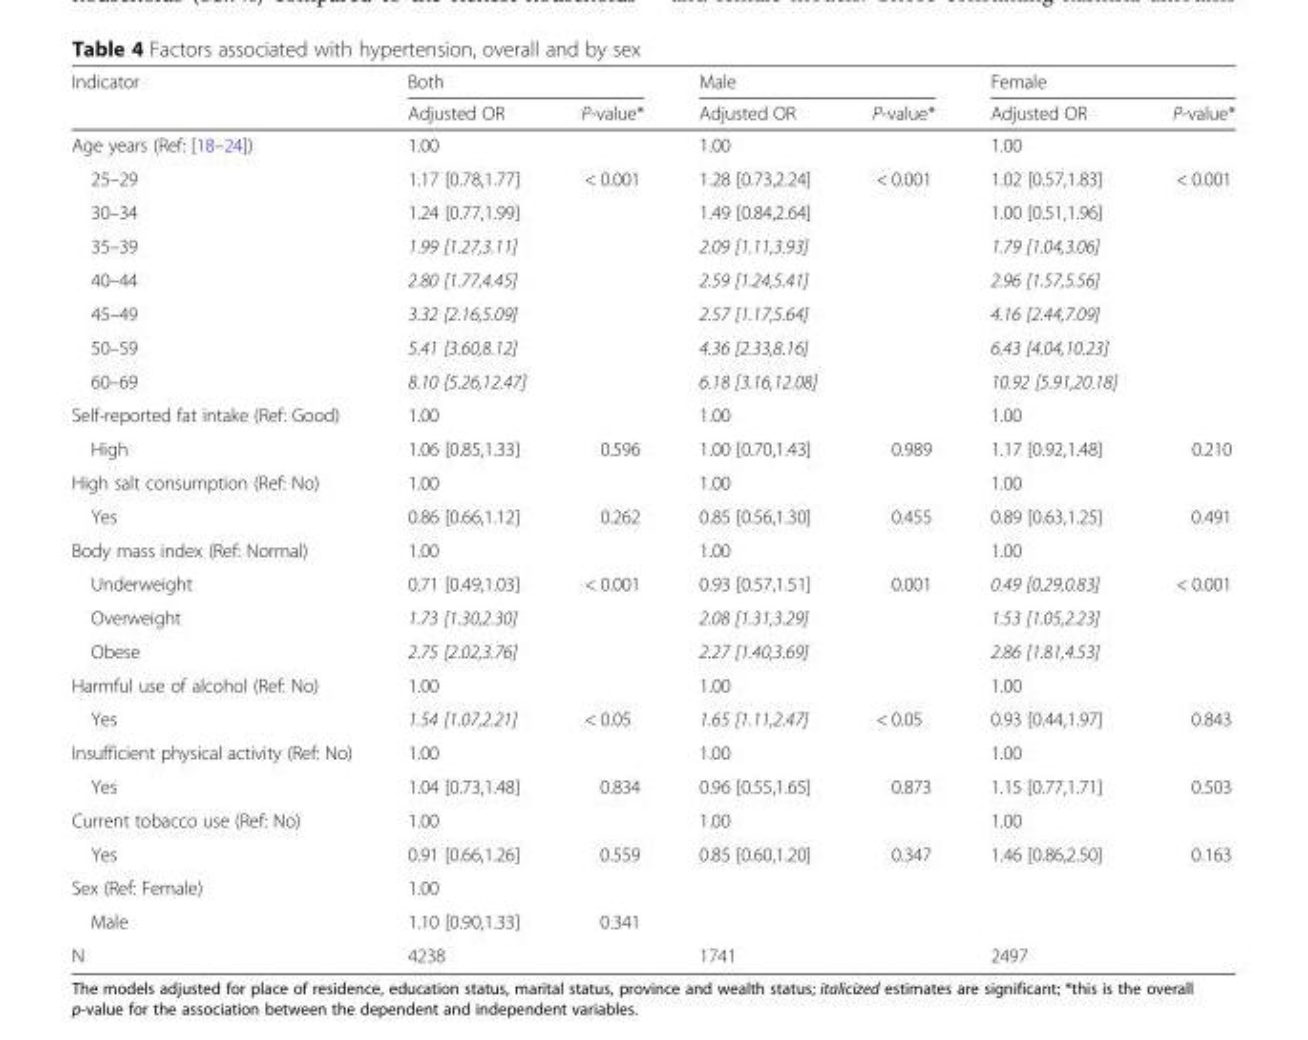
<table><thead><tr><td rowspan="2">Indicator</td><td colspan="2">Both</td><td colspan="2">Male</td><td colspan="2">Female</td></tr><tr><td>Adjusted OR</td><td>P-value*</td><td>Adjusted OR</td><td>P-value*</td><td>Adjusted OR</td><td>P-value*</td></tr></thead><tbody><tr><td>Age years (Ref: [18–24])</td><td>1.00</td><td></td><td>1.00</td><td></td><td>1.00</td><td></td></tr><tr><td>25–29</td><td>1.17 [0.78,1.77]</td><td>&lt; 0.001</td><td>1.28 [0.73,2.24]</td><td>&lt; 0.001</td><td>1.02 [0.57,1.83]</td><td>&lt; 0.001</td></tr><tr><td>30–34</td><td>1.24 [0.77,1.99]</td><td></td><td>1.49 [0.84,2.64]</td><td></td><td>1.00 [0.51,1.96]</td><td></td></tr><tr><td>35–39</td><td>1.99 [1.27,3.11]</td><td></td><td>2.09 [1.11,3.93]</td><td></td><td>1.79 [1.04,3.06]</td><td></td></tr><tr><td>40–44</td><td>2.80 [1.77,4.45]</td><td></td><td>2.59 [1.24,5.41]</td><td></td><td>2.96 [1.57,5.56]</td><td></td></tr><tr><td>45–49</td><td>3.32 [2.16,5.09]</td><td></td><td>2.57 [1.17,5.64]</td><td></td><td>4.16 [2.44,7.09]</td><td></td></tr><tr><td>50–59</td><td>5.41 [3.60,8.12]</td><td></td><td>4.36 [2.33,8.16]</td><td></td><td>6.43 [4.04,10.23]</td><td></td></tr><tr><td>60–69</td><td>8.10 [5.26,12.47]</td><td></td><td>6.18 [3.16,12.08]</td><td></td><td>10.92 [5.91,20.18]</td><td></td></tr><tr><td>Self-reported fat intake (Ref: Good)</td><td>1.00</td><td></td><td>1.00</td><td></td><td>1.00</td><td></td></tr><tr><td>High</td><td>1.06 [0.85,1.33]</td><td>0.596</td><td>1.00 [0.70,1.43]</td><td>0.989</td><td>1.17 [0.92,1.48]</td><td>0.210</td></tr><tr><td>High salt consumption (Ref: No)</td><td>1.00</td><td></td><td>1.00</td><td></td><td>1.00</td><td></td></tr><tr><td>Yes</td><td>0.86 [0.66,1.12]</td><td>0.262</td><td>0.85 [0.56,1.30]</td><td>0.455</td><td>0.89 [0.63,1.25]</td><td>0.491</td></tr><tr><td>Body mass index (Ref: Normal)</td><td>1.00</td><td></td><td>1.00</td><td></td><td>1.00</td><td></td></tr><tr><td>Underweight</td><td>0.71 [0.49,1.03]</td><td>&lt; 0.001</td><td>0.93 [0.57,1.51]</td><td>0.001</td><td>0.49 [0.29,0.83]</td><td>&lt; 0.001</td></tr><tr><td>Overweight</td><td>1.73 [1.30,2.30]</td><td></td><td>2.08 [1.31,3.29]</td><td></td><td>1.53 [1.05,2.23]</td><td></td></tr><tr><td>Obese</td><td>2.75 [2.02,3.76]</td><td></td><td>2.27 [1.40,3.69]</td><td></td><td>2.86 [1.81,4.53]</td><td></td></tr><tr><td>Harmful use of alcohol (Ref: No)</td><td>1.00</td><td></td><td>1.00</td><td></td><td>1.00</td><td></td></tr><tr><td>Yes</td><td>1.54 [1.07,2.21]</td><td>&lt; 0.05</td><td>1.65 [1.11,2.47]</td><td>&lt; 0.05</td><td>0.93 [0.44,1.97]</td><td>0.843</td></tr><tr><td>Insufficient physical activity (Ref: No)</td><td>1.00</td><td></td><td>1.00</td><td></td><td>1.00</td><td></td></tr><tr><td>Yes</td><td>1.04 [0.73,1.48]</td><td>0.834</td><td>0.96 [0.55,1.65]</td><td>0.873</td><td>1.15 [0.77,1.71]</td><td>0.503</td></tr><tr><td>Current tobacco use (Ref: No)</td><td>1.00</td><td></td><td>1.00</td><td></td><td>1.00</td><td></td></tr><tr><td>Yes</td><td>0.91 [0.66,1.26]</td><td>0.559</td><td>0.85 [0.60,1.20]</td><td>0.347</td><td>1.46 [0.86,2.50]</td><td>0.163</td></tr><tr><td>Sex (Ref: Female)</td><td>1.00</td><td></td><td></td><td></td><td></td><td></td></tr><tr><td>Male</td><td>1.10 [0.90,1.33]</td><td>0.341</td><td></td><td></td><td></td><td></td></tr><tr><td>N</td><td colspan="2">4238</td><td colspan="2">1741</td><td colspan="2">2497</td></tr></tbody></table>